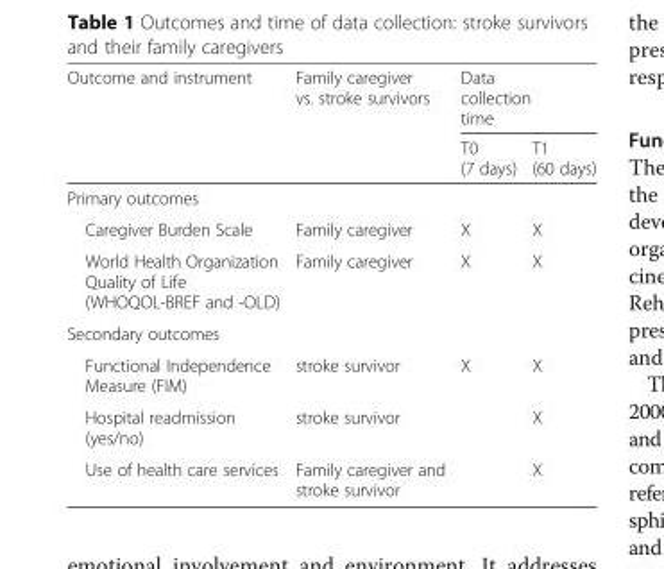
<table><thead><tr><td rowspan="2">Outcome and instrument</td><td rowspan="2">Family caregiver vs. stroke survivors</td><td colspan="2">Data collection time</td></tr><tr><td>T0 (7 days)</td><td>T1 (60 days)</td></tr></thead><tbody><tr><td colspan="4">Primary outcomes</td></tr><tr><td>Caregiver Burden Scale</td><td>Family caregiver</td><td>X</td><td>X</td></tr><tr><td>World Health Organization Quality of Life (WHOQOL-BREF and -OLD)</td><td>Family caregiver</td><td>X</td><td>X</td></tr><tr><td colspan="4">Secondary outcomes</td></tr><tr><td>Functional Independence Measure (FIM)</td><td>stroke survivor</td><td>X</td><td>X</td></tr><tr><td>Hospital readmission (yes/no)</td><td>stroke survivor</td><td></td><td>X</td></tr><tr><td>Use of health care services</td><td>Family caregiver and stroke survivor</td><td></td><td>X</td></tr></tbody></table>